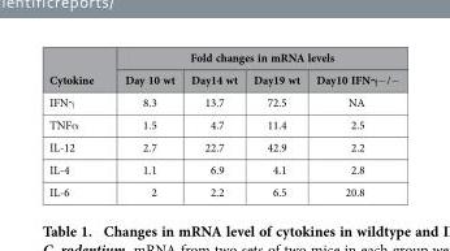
<table><thead><tr><td rowspan="2">Cytokine</td><td colspan="4">Fold changes in mRNA levels</td></tr><tr><td>Day 10 wt</td><td>Day14 wt</td><td>Day19 wt</td><td>Day10 IFNγ− /−</td></tr></thead><tbody><tr><td>IFNγ</td><td>8.3</td><td>13.7</td><td>72.5</td><td>NA</td></tr><tr><td>TNFα</td><td>1.5</td><td>4.7</td><td>11.4</td><td>2.5</td></tr><tr><td>IL-12</td><td>2.7</td><td>22.7</td><td>42.9</td><td>2.2</td></tr><tr><td>IL-4</td><td>1.1</td><td>6.9</td><td>4.1</td><td>2.8</td></tr><tr><td>IL-6</td><td>2</td><td>2.2</td><td>6.5</td><td>20.8</td></tr></tbody></table>